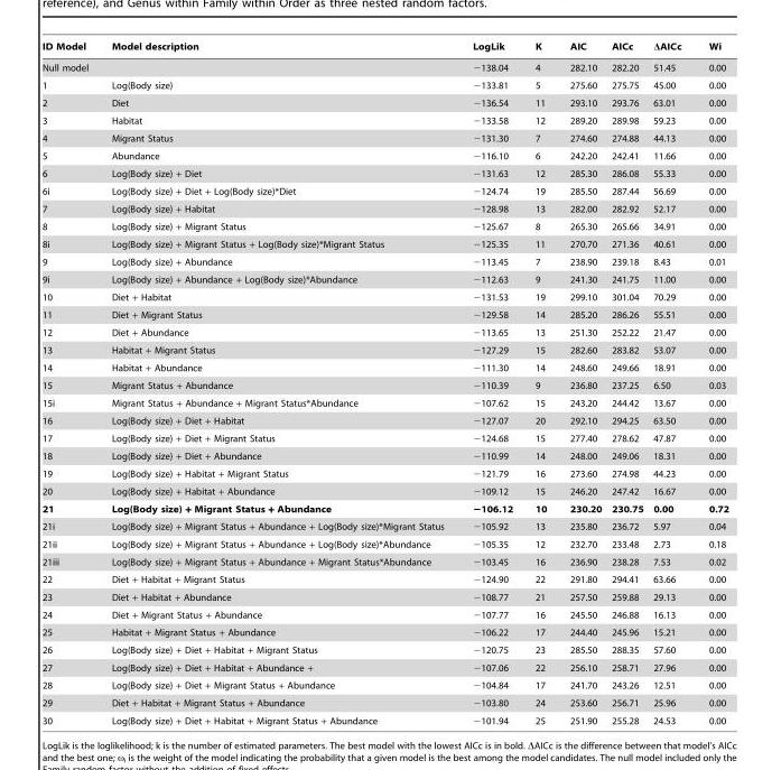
<table><thead><tr><td>ID Model</td><td>Model description</td><td>LogLik</td><td>K</td><td>AIC</td><td>AICc</td><td>ΔAICc</td><td>Wi</td></tr></thead><tbody><tr><td>Null model</td><td></td><td>−138.04</td><td>4</td><td>282.10</td><td>282.20</td><td>51.45</td><td>0.00</td></tr><tr><td>1</td><td>Log(Body size)</td><td>−133.81</td><td>5</td><td>275.60</td><td>275.75</td><td>45.00</td><td>0.00</td></tr><tr><td>2</td><td>Diet</td><td>−136.54</td><td>11</td><td>293.10</td><td>293.76</td><td>63.01</td><td>0.00</td></tr><tr><td>3</td><td>Habitat</td><td>−133.58</td><td>12</td><td>289.20</td><td>289.98</td><td>59.23</td><td>0.00</td></tr><tr><td>4</td><td>Migrant Status</td><td>−131.30</td><td>7</td><td>274.60</td><td>274.88</td><td>44.13</td><td>0.00</td></tr><tr><td>5</td><td>Abundance</td><td>−116.10</td><td>6</td><td>242.20</td><td>242.41</td><td>11.66</td><td>0.00</td></tr><tr><td>6</td><td>Log(Body size) + Diet</td><td>−131.63</td><td>12</td><td>285.30</td><td>286.08</td><td>55.33</td><td>0.00</td></tr><tr><td>6i</td><td>Log(Body size) + Diet + Log(Body size)*Diet</td><td>−124.74</td><td>19</td><td>285.50</td><td>287.44</td><td>56.69</td><td>0.00</td></tr><tr><td>7</td><td>Log(Body size) + Habitat</td><td>−128.98</td><td>13</td><td>282.00</td><td>282.92</td><td>52.17</td><td>0.00</td></tr><tr><td>8</td><td>Log(Body size) + Migrant Status</td><td>−125.67</td><td>8</td><td>265.30</td><td>265.66</td><td>34.91</td><td>0.00</td></tr><tr><td>8i</td><td>Log(Body size) + Migrant Status + Log(Body size)*Migrant Status</td><td>−125.35</td><td>11</td><td>270.70</td><td>271.36</td><td>40.61</td><td>0.00</td></tr><tr><td>9</td><td>Log(Body size) + Abundance</td><td>−113.45</td><td>7</td><td>238.90</td><td>239.18</td><td>8.43</td><td>0.01</td></tr><tr><td>9i</td><td>Log(Body size) + Abundance + Log(Body size)*Abundance</td><td>−112.63</td><td>9</td><td>241.30</td><td>241.75</td><td>11.00</td><td>0.00</td></tr><tr><td>10</td><td>Diet + Habitat</td><td>−131.53</td><td>19</td><td>299.10</td><td>301.04</td><td>70.29</td><td>0.00</td></tr><tr><td>11</td><td>Diet + Migrant Status</td><td>−129.58</td><td>14</td><td>285.20</td><td>286.26</td><td>55.51</td><td>0.00</td></tr><tr><td>12</td><td>Diet + Abundance</td><td>−113.65</td><td>13</td><td>251.30</td><td>252.22</td><td>21.47</td><td>0.00</td></tr><tr><td>13</td><td>Habitat + Migrant Status</td><td>−127.29</td><td>15</td><td>282.60</td><td>283.82</td><td>53.07</td><td>0.00</td></tr><tr><td>14</td><td>Habitat + Abundance</td><td>−111.30</td><td>14</td><td>248.60</td><td>249.66</td><td>18.91</td><td>0.00</td></tr><tr><td>15</td><td>Migrant Status + Abundance</td><td>−110.39</td><td>9</td><td>236.80</td><td>237.25</td><td>6.50</td><td>0.03</td></tr><tr><td>15i</td><td>Migrant Status + Abundance + Migrant Status*Abundance</td><td>−107.62</td><td>15</td><td>243.20</td><td>244.42</td><td>13.67</td><td>0.00</td></tr><tr><td>16</td><td>Log(Body size) + Diet + Habitat</td><td>−127.07</td><td>20</td><td>292.10</td><td>294.25</td><td>63.50</td><td>0.00</td></tr><tr><td>17</td><td>Log(Body size) + Diet + Migrant Status</td><td>−124.68</td><td>15</td><td>277.40</td><td>278.62</td><td>47.87</td><td>0.00</td></tr><tr><td>18</td><td>Log(Body size) + Diet + Abundance</td><td>−110.99</td><td>14</td><td>248.00</td><td>249.06</td><td>18.31</td><td>0.00</td></tr><tr><td>19</td><td>Log(Body size) + Habitat + Migrant Status</td><td>−121.79</td><td>16</td><td>273.60</td><td>274.98</td><td>44.23</td><td>0.00</td></tr><tr><td>20</td><td>Log(Body size) + Habitat + Abundance</td><td>−109.12</td><td>15</td><td>246.20</td><td>247.42</td><td>16.67</td><td>0.00</td></tr><tr><td>21</td><td>Log(Body size) + Migrant Status + Abundance</td><td>−106.12</td><td>10</td><td>230.20</td><td>230.75</td><td>0.00</td><td>0.72</td></tr><tr><td>21i</td><td>Log(Body size) + Migrant Status + Abundance + Log(Body size)*Migrant Status</td><td>−105.92</td><td>13</td><td>235.80</td><td>236.72</td><td>5.97</td><td>0.04</td></tr><tr><td>21ii</td><td>Log(Body size) + Migrant Status + Abundance + Log(Body size)*Abundance</td><td>−105.35</td><td>12</td><td>232.70</td><td>233.48</td><td>2.73</td><td>0.18</td></tr><tr><td>21iii</td><td>Log(Body size) + Migrant Status + Abundance + Migrant Status*Abundance</td><td>−103.45</td><td>16</td><td>236.90</td><td>238.28</td><td>7.53</td><td>0.02</td></tr><tr><td>22</td><td>Diet + Habitat + Migrant Status</td><td>−124.90</td><td>22</td><td>291.80</td><td>294.41</td><td>63.66</td><td>0.00</td></tr><tr><td>23</td><td>Diet + Habitat + Abundance</td><td>−108.77</td><td>21</td><td>257.50</td><td>259.88</td><td>29.13</td><td>0.00</td></tr><tr><td>24</td><td>Diet + Migrant Status + Abundance</td><td>−107.77</td><td>16</td><td>245.50</td><td>246.88</td><td>16.13</td><td>0.00</td></tr><tr><td>25</td><td>Habitat + Migrant Status + Abundance</td><td>−106.22</td><td>17</td><td>244.40</td><td>245.96</td><td>15.21</td><td>0.00</td></tr><tr><td>26</td><td>Log(Body size) + Diet + Habitat + Migrant Status</td><td>−120.75</td><td>23</td><td>285.50</td><td>288.35</td><td>57.60</td><td>0.00</td></tr><tr><td>27</td><td>Log(Body size) + Diet + Habitat + Abundance +</td><td>−107.06</td><td>22</td><td>256.10</td><td>258.71</td><td>27.96</td><td>0.00</td></tr><tr><td>28</td><td>Log(Body size) + Diet + Migrant Status + Abundance</td><td>−104.84</td><td>17</td><td>241.70</td><td>243.26</td><td>12.51</td><td>0.00</td></tr><tr><td>29</td><td>Diet + Habitat + Migrant Status + Abundance</td><td>−103.80</td><td>24</td><td>253.60</td><td>256.71</td><td>25.96</td><td>0.00</td></tr><tr><td>30</td><td>Log(Body size) + Diet + Habitat + Migrant Status + Abundance</td><td>−101.94</td><td>25</td><td>251.90</td><td>255.28</td><td>24.53</td><td>0.00</td></tr></tbody></table>